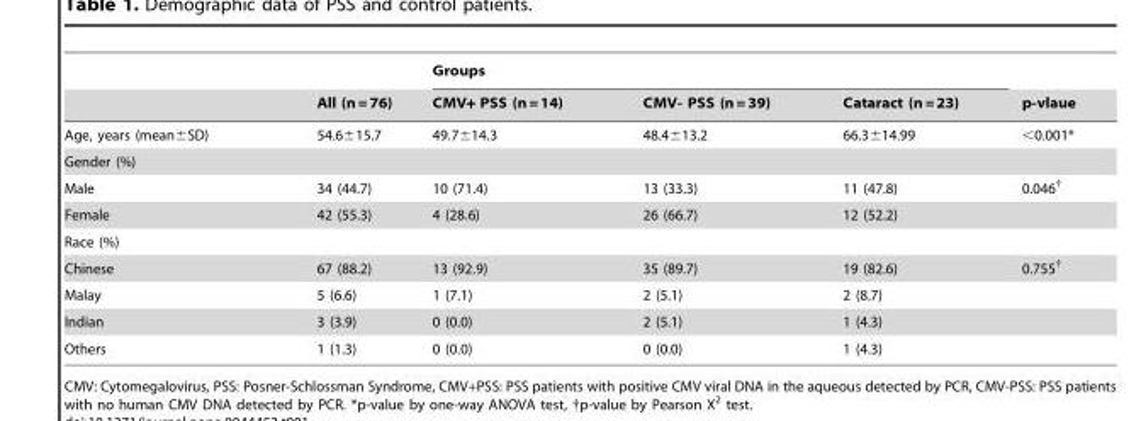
<table><thead><tr><td rowspan="2"></td><td rowspan="2">All (n = 76)</td><td colspan="3">Groups</td><td rowspan="2">p-vlaue</td></tr><tr><td>CMV+ PSS (n = 14)</td><td>CMV- PSS (n = 39)</td><td>Cataract (n = 23)</td></tr></thead><tbody><tr><td>Age, years (mean±SD)</td><td>54.6±15.7</td><td>49.7±14.3</td><td>48.4±13.2</td><td>66.3±14.99</td><td>&lt;0.001*</td></tr><tr><td colspan="6">Gender (%)</td></tr><tr><td>Male</td><td>34 (44.7)</td><td>10 (71.4)</td><td>13 (33.3)</td><td>11 (47.8)</td><td>0.046<sup>†</sup></td></tr><tr><td>Female</td><td>42 (55.3)</td><td>4 (28.6)</td><td>26 (66.7)</td><td>12 (52.2)</td><td></td></tr><tr><td colspan="6">Race (%)</td></tr><tr><td>Chinese</td><td>67 (88.2)</td><td>13 (92.9)</td><td>35 (89.7)</td><td>19 (82.6)</td><td>0.755<sup>†</sup></td></tr><tr><td>Malay</td><td>5 (6.6)</td><td>1 (7.1)</td><td>2 (5.1)</td><td>2 (8.7)</td><td></td></tr><tr><td>Indian</td><td>3 (3.9)</td><td>0 (0.0)</td><td>2 (5.1)</td><td>1 (4.3)</td><td></td></tr><tr><td>Others</td><td>1 (1.3)</td><td>0 (0.0)</td><td>0 (0.0)</td><td>1 (4.3)</td><td></td></tr></tbody></table>